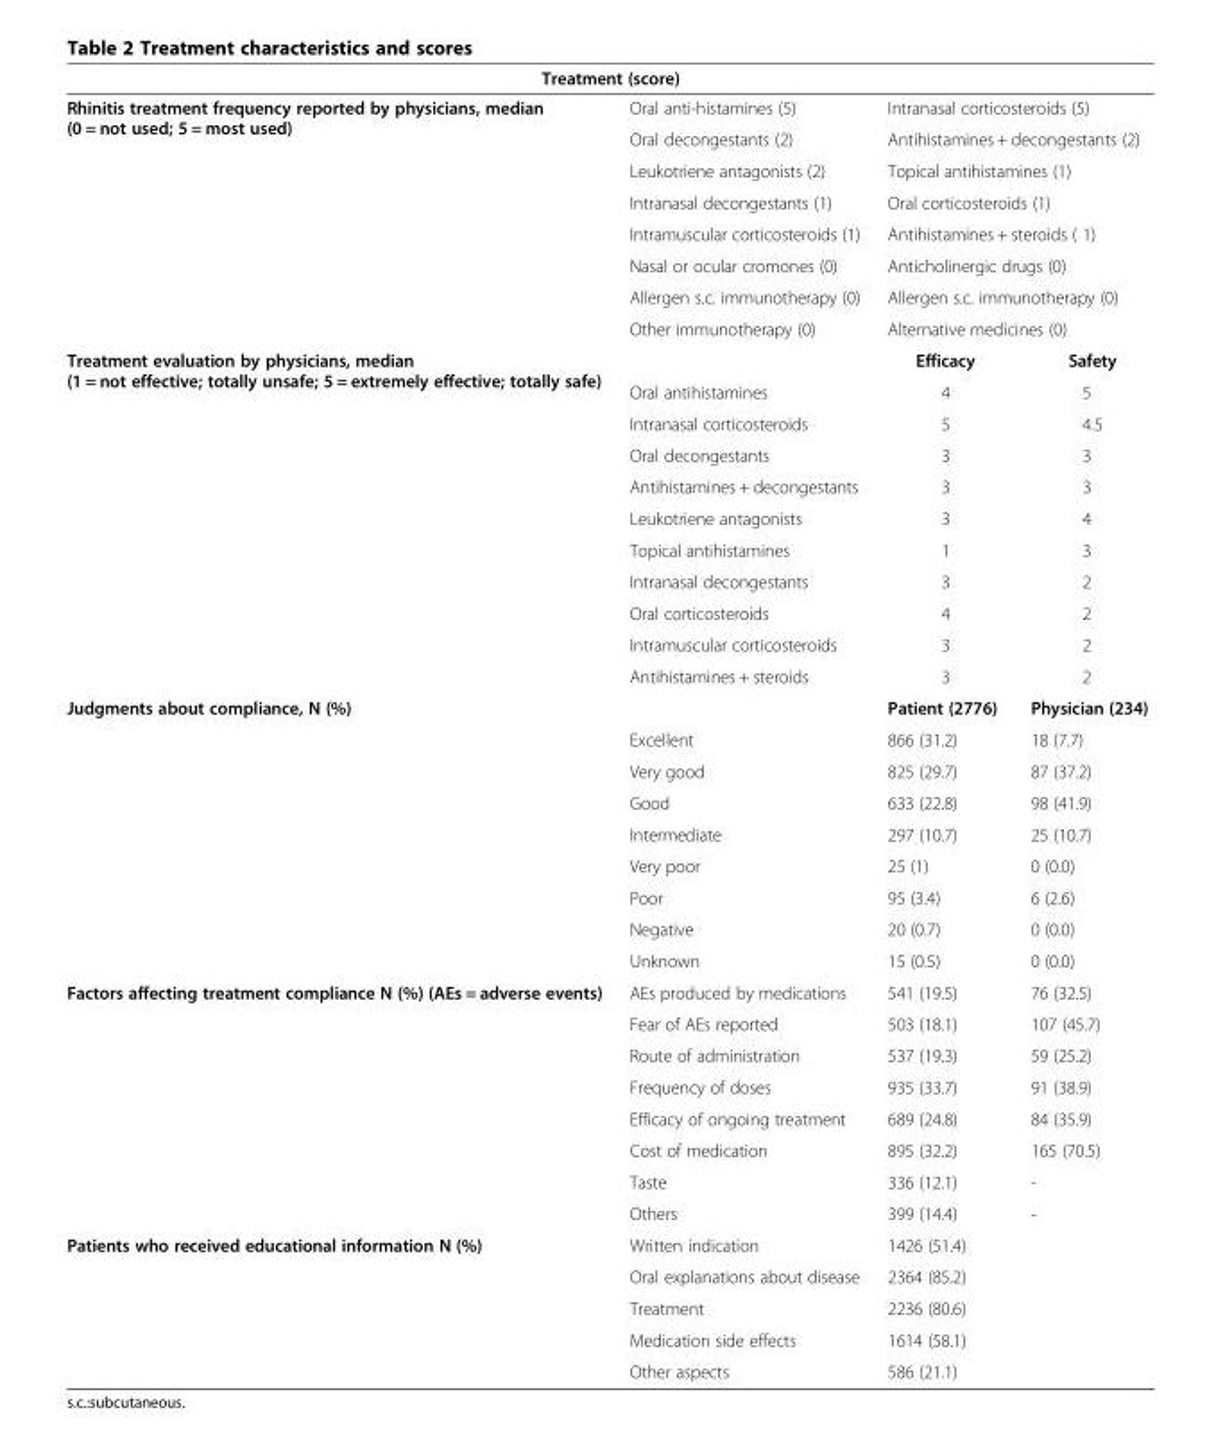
<table><thead><tr><td colspan="4">Treatment (score)</td></tr></thead><tbody><tr><td rowspan="8">Rhinitis treatment frequency reported by physicians, median (0 = not used; 5 = most used)</td><td>Oral anti-histamines (5)</td><td colspan="2">Intranasal corticosteroids (5)</td></tr><tr><td>Oral decongestants (2)</td><td colspan="2">Antihistamines + decongestants (2)</td></tr><tr><td>Leukotriene antagonists (2)</td><td colspan="2">Topical antihistamines (1)</td></tr><tr><td>Intranasal decongestants (1)</td><td colspan="2">Oral corticosteroids (1)</td></tr><tr><td>Intramuscular corticosteroids (1)</td><td colspan="2">Antihistamines + steroids ( 1)</td></tr><tr><td>Nasal or ocular cromones (0)</td><td colspan="2">Anticholinergic drugs (0)</td></tr><tr><td>Allergen s.c. immunotherapy (0)</td><td colspan="2">Allergen s.c. immunotherapy (0)</td></tr><tr><td>Other immunotherapy (0)</td><td colspan="2">Alternative medicines (0)</td></tr><tr><td rowspan="11">Treatment evaluation by physicians, median (1 = not effective; totally unsafe; 5 = extremely effective; totally safe)</td><td></td><td>Efficacy</td><td>Safety</td></tr><tr><td>Oral antihistamines</td><td>4</td><td>5</td></tr><tr><td>Intranasal corticosteroids</td><td>5</td><td>4.5</td></tr><tr><td>Oral decongestants</td><td>3</td><td>3</td></tr><tr><td>Antihistamines + decongestants</td><td>3</td><td>3</td></tr><tr><td>Leukotriene antagonists</td><td>3</td><td>4</td></tr><tr><td>Topical antihistamines</td><td>1</td><td>3</td></tr><tr><td>Intranasal decongestants</td><td>3</td><td>2</td></tr><tr><td>Oral corticosteroids</td><td>4</td><td>2</td></tr><tr><td>Intramuscular corticosteroids</td><td>3</td><td>2</td></tr><tr><td>Antihistamines + steroids</td><td>3</td><td>2</td></tr><tr><td rowspan="9">Judgments about compliance, N (%)</td><td></td><td>Patient (2776)</td><td>Physician (234)</td></tr><tr><td>Excellent</td><td>866 (31.2)</td><td>18 (7.7)</td></tr><tr><td>Very good</td><td>825 (29.7)</td><td>87 (37.2)</td></tr><tr><td>Good</td><td>633 (22.8)</td><td>98 (41.9)</td></tr><tr><td>Intermediate</td><td>297 (10.7)</td><td>25 (10.7)</td></tr><tr><td>Very poor</td><td>25 (1)</td><td>0 (0.0)</td></tr><tr><td>Poor</td><td>95 (3.4)</td><td>6 (2.6)</td></tr><tr><td>Negative</td><td>20 (0.7)</td><td>0 (0.0)</td></tr><tr><td>Unknown</td><td>15 (0.5)</td><td>0 (0.0)</td></tr><tr><td rowspan="8">Factors affecting treatment compliance N (%) (AEs = adverse events)</td><td>AEs produced by medications</td><td>541 (19.5)</td><td>76 (32.5)</td></tr><tr><td>Fear of AEs reported</td><td>503 (18.1)</td><td>107 (45.7)</td></tr><tr><td>Route of administration</td><td>537 (19.3)</td><td>59 (25.2)</td></tr><tr><td>Frequency of doses</td><td>935 (33.7)</td><td>91 (38.9)</td></tr><tr><td>Efficacy of ongoing treatment</td><td>689 (24.8)</td><td>84 (35.9)</td></tr><tr><td>Cost of medication</td><td>895 (32.2)</td><td>165 (70.5)</td></tr><tr><td>Taste</td><td>336 (12.1)</td><td>-</td></tr><tr><td>Others</td><td>399 (14.4)</td><td>-</td></tr><tr><td rowspan="5">Patients who received educational information N (%)</td><td>Written indication</td><td colspan="2">1426 (51.4)</td></tr><tr><td>Oral explanations about disease</td><td colspan="2">2364 (85.2)</td></tr><tr><td>Treatment</td><td colspan="2">2236 (80.6)</td></tr><tr><td>Medication side effects</td><td colspan="2">1614 (58.1)</td></tr><tr><td>Other aspects</td><td colspan="2">586 (21.1)</td></tr></tbody></table>